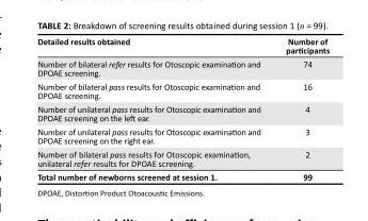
<table><thead><tr><td>Detailed results obtained</td><td>Number of participants</td></tr></thead><tbody><tr><td>Number of bilateral refer results for Otoscopic examination and DPOAE screening.</td><td>74</td></tr><tr><td>Number of bilateral pass results for Otoscopic examination and DPOAE screening.</td><td>16</td></tr><tr><td>Number of unilateral pass results for Otoscopic examination and DPOAE screening on the left ear.</td><td>4</td></tr><tr><td>Number of unilateral pass results for Otoscopic examination and DPOAE screening on the right ear.</td><td>3</td></tr><tr><td>Number of bilateral pass results for Otoscopic examination, unilateral refer results for DPOAE screening.</td><td>2</td></tr><tr><td>Total number of newborns screened at session 1.</td><td>99</td></tr></tbody></table>